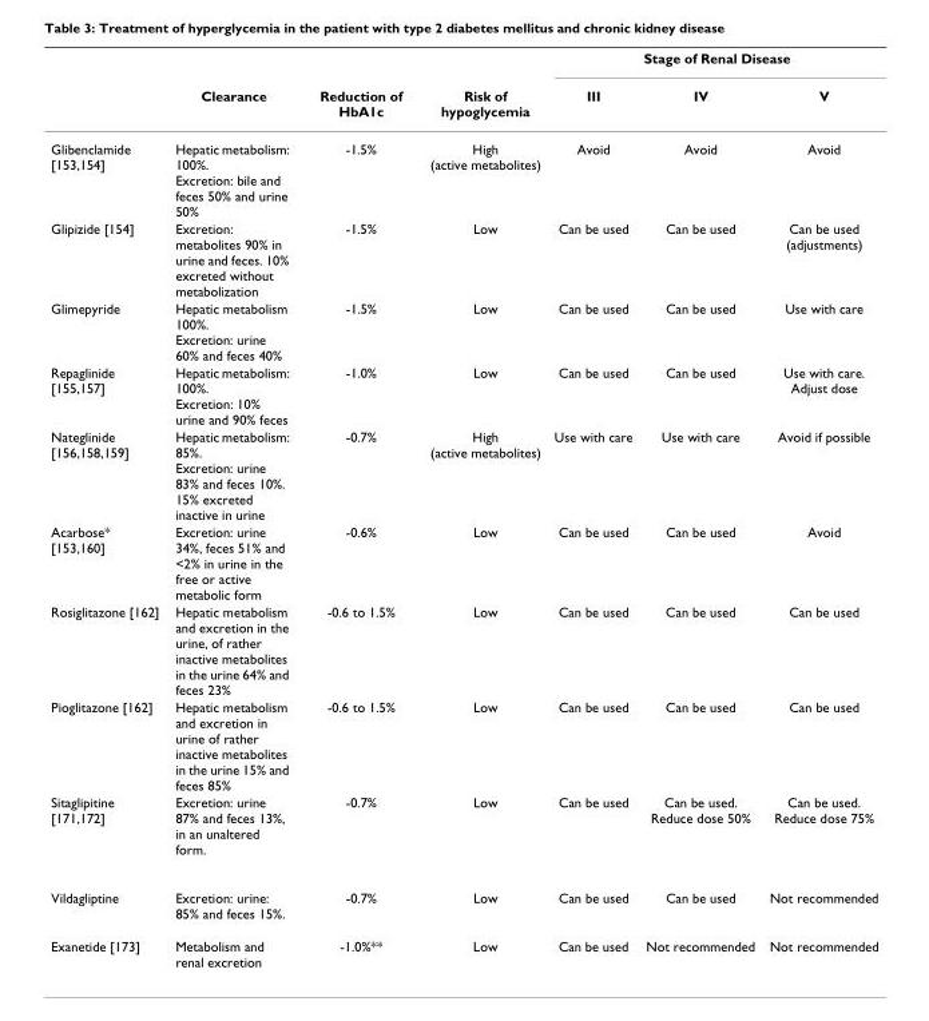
<table><thead><tr><td rowspan="2"></td><td rowspan="2">Clearance</td><td rowspan="2">Reduction of HbA1c</td><td rowspan="2">Risk of hypoglycemia</td><td colspan="3">Stage of Renal Disease</td></tr><tr><td>III</td><td>IV</td><td>V</td></tr></thead><tbody><tr><td>Glibenclamide [153,154]</td><td>Hepatic metabolism: 100%. Excretion: bile and feces 50% and urine 50%</td><td>-1.5%</td><td>High (active metabolites)</td><td>Avoid</td><td>Avoid</td><td>Avoid</td></tr><tr><td>Glipizide [154]</td><td>Excretion: metabolites 90% in urine and feces. 10% excreted without metabolization</td><td>-1.5%</td><td>Low</td><td>Can be used</td><td>Can be used</td><td>Can be used (adjustments)</td></tr><tr><td>Glimepyride</td><td>Hepatic metabolism 100%. Excretion: urine 60% and feces 40%</td><td>-1.5%</td><td>Low</td><td>Can be used</td><td>Can be used</td><td>Use with care</td></tr><tr><td>Repaglinide [155,157]</td><td>Hepatic metabolism: 100%. Excretion: 10% urine and 90% feces</td><td>-1.0%</td><td>Low</td><td>Can be used</td><td>Can be used</td><td>Use with care. Adjust dose</td></tr><tr><td>Nateglinide [156,158,159]</td><td>Hepatic metabolism: 85%. Excretion: urine 83% and feces 10%. 15% excreted inactive in urine</td><td>-0.7%</td><td>High (active metabolites)</td><td>Use with care</td><td>Use with care</td><td>Avoid if possible</td></tr><tr><td>Acarbose* [153,160]</td><td>Excretion: urine 34%, feces 51% and &lt;2% in urine in the free or active metabolic form</td><td>-0.6%</td><td>Low</td><td>Can be used</td><td>Can be used</td><td>Avoid</td></tr><tr><td>Rosiglitazone [162]</td><td>Hepatic metabolism and excretion in the urine, of rather inactive metabolites in the urine 64% and feces 23%</td><td>-0.6 to 1.5%</td><td>Low</td><td>Can be used</td><td>Can be used</td><td>Can be used</td></tr><tr><td>Pioglitazone [162]</td><td>Hepatic metabolism and excretion in urine of rather inactive metabolites in the urine 15% and feces 85%</td><td>-0.6 to 1.5%</td><td>Low</td><td>Can be used</td><td>Can be used</td><td>Can be used</td></tr><tr><td>Sitaglipitine [171,172]</td><td>Excretion: urine 87% and feces 13%, in an unaltered form.</td><td>-0.7%</td><td>Low</td><td>Can be used</td><td>Can be used. Reduce dose 50%</td><td>Can be used. Reduce dose 75%</td></tr><tr><td>Vildagliptine</td><td>Excretion: urine: 85% and feces 15%.</td><td>-0.7%</td><td>Low</td><td>Can be used</td><td>Can be used</td><td>Not recommended</td></tr><tr><td>Exanetide [173]</td><td>Metabolism and renal excretion</td><td>-1.0%**</td><td>Low</td><td>Can be used</td><td>Not recommended</td><td>Not recommended</td></tr></tbody></table>